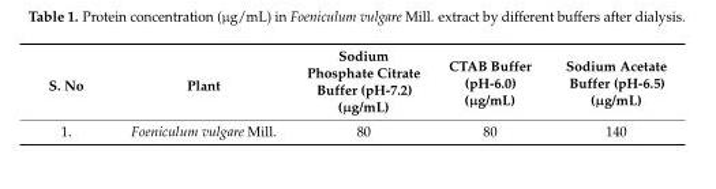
<table><thead><tr><td>S. No</td><td>Plant</td><td>Sodium Phosphate Citrate Buffer (pH-7.2) (µg/mL)</td><td>CTAB Buffer (pH-6.0) (µg/mL)</td><td>Sodium Acetate Buffer (pH-6.5) (µg/mL)</td></tr></thead><tbody><tr><td>1.</td><td>Foeniculum vulgare Mill.</td><td>80</td><td>80</td><td>140</td></tr></tbody></table>